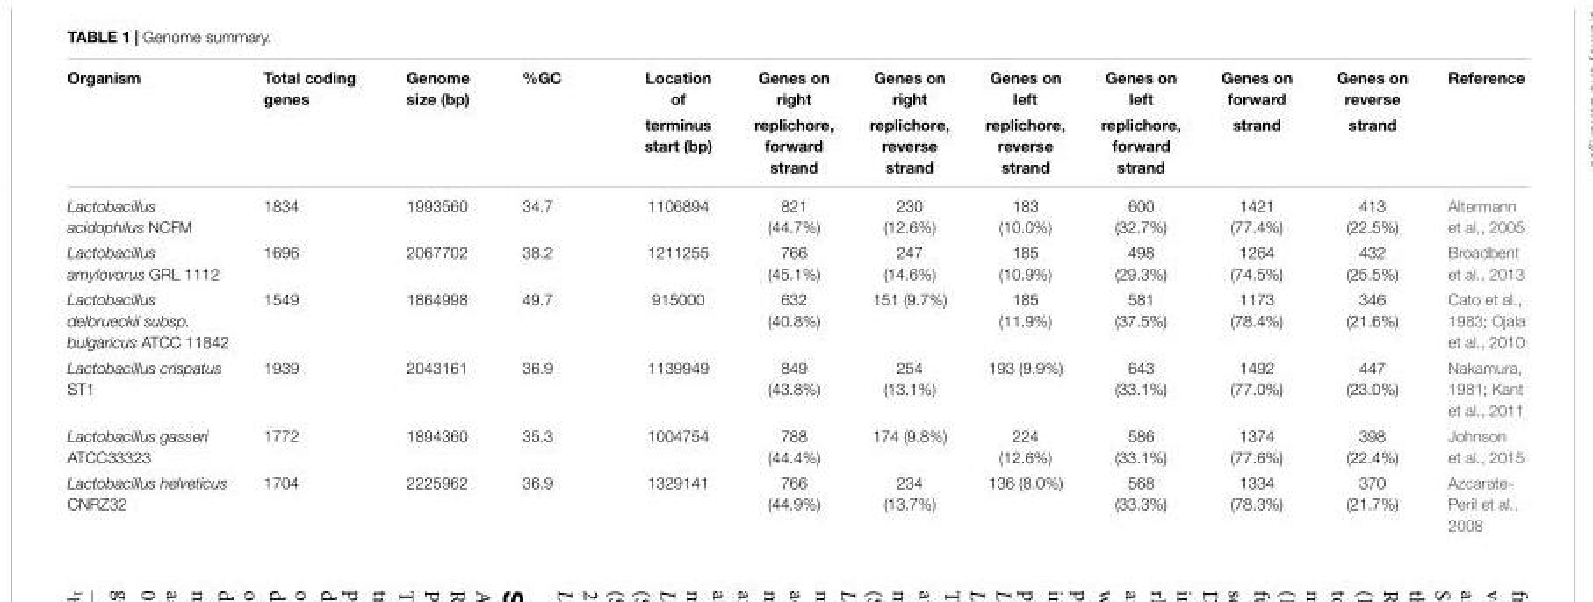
<table><thead><tr><td rowspan="2">Organism</td><td rowspan="2">Total coding genes</td><td rowspan="2">Genome size (bp)</td><td rowspan="2">%GC</td><td rowspan="2">Location of terminus start (bp)</td><td rowspan="2">Genes on right replichore, forward strand</td><td rowspan="2">Genes on right replichore, reverse strand</td><td rowspan="2">Genes on left replichore, reverse strand</td><td rowspan="2">Genes on left replichore, forward strand</td><td rowspan="2">Genes on forward strand</td><td rowspan="2">Genes on reverse strand</td><td rowspan="2">Reference</td></tr><tr></tr></thead><tbody><tr><td>Lactobacillus acidophilus NCFM</td><td>1834</td><td>1993560</td><td>34.7</td><td>1106894</td><td>821 (44.7%)</td><td>230 (12.6%)</td><td>183 (10.0%)</td><td>600 (32.7%)</td><td>1421 (77.4%)</td><td>413 (22.5%)</td><td>Altermann et al., 2005</td></tr><tr><td>Lactobacillus amylovorus GRL 1112</td><td>1696</td><td>2067702</td><td>38.2</td><td>1211255</td><td>766 (45.1%)</td><td>247 (14.6%)</td><td>185 (10.9%)</td><td>498 (29.3%)</td><td>1264 (74.5%)</td><td>432 (25.5%)</td><td>Broadbent et al., 2013</td></tr><tr><td>Lactobacillus delbrueckii subsp. bulgaricus ATCC 11842</td><td>1549</td><td>1864998</td><td>49.7</td><td>915000</td><td>632 (40.8%)</td><td>151 (9.7%)</td><td>185 (11.9%)</td><td>581 (37.5%)</td><td>1173 (78.4%)</td><td>346 (21.6%)</td><td>Cato et al., 1983; Ojala et al., 2010</td></tr><tr><td>Lactobacillus crispatus ST1</td><td>1939</td><td>2043161</td><td>36.9</td><td>1139949</td><td>849 (43.8%)</td><td>254 (13.1%)</td><td>193 (9.9%)</td><td>643 (33.1%)</td><td>1492 (77.0%)</td><td>447 (23.0%)</td><td>Nakamura, 1981; Kant et al., 2011</td></tr><tr><td>Lactobacillus gasseri ATCC33323</td><td>1772</td><td>1894360</td><td>35.3</td><td>1004754</td><td>788 (44.4%)</td><td>174 (9.8%)</td><td>224 (12.6%)</td><td>586 (33.1%)</td><td>1374 (77.6%)</td><td>398 (22.4%)</td><td>Johnson et al., 2015</td></tr><tr><td>Lactobacillus helveticus CNRZ32</td><td>1704</td><td>2225962</td><td>36.9</td><td>1329141</td><td>766 (44.9%)</td><td>234 (13.7%)</td><td>136 (8.0%)</td><td>568 (33.3%)</td><td>1334 (78.3%)</td><td>370 (21.7%)</td><td>Azcarate- Peril et al., 2008</td></tr></tbody></table>